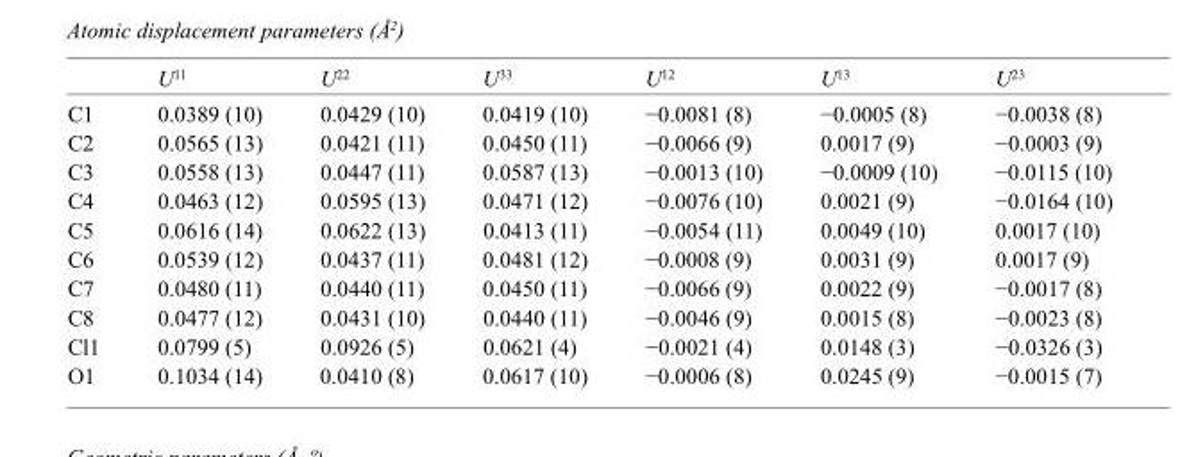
<table><thead><tr><td></td><td>U<sup>11</sup></td><td>U<sup>22</sup></td><td>U<sup>33</sup></td><td>U<sup>12</sup></td><td>U<sup>13</sup></td><td>U<sup>23</sup></td></tr></thead><tbody><tr><td>C1</td><td>0.0389 (10)</td><td>0.0429 (10)</td><td>0.0419 (10)</td><td>−0.0081 (8)</td><td>−0.0005 (8)</td><td>−0.0038 (8)</td></tr><tr><td>C2</td><td>0.0565 (13)</td><td>0.0421 (11)</td><td>0.0450 (11)</td><td>−0.0066 (9)</td><td>0.0017 (9)</td><td>−0.0003 (9)</td></tr><tr><td>C3</td><td>0.0558 (13)</td><td>0.0447 (11)</td><td>0.0587 (13)</td><td>−0.0013 (10)</td><td>−0.0009 (10)</td><td>−0.0115 (10)</td></tr><tr><td>C4</td><td>0.0463 (12)</td><td>0.0595 (13)</td><td>0.0471 (12)</td><td>−0.0076 (10)</td><td>0.0021 (9)</td><td>−0.0164 (10)</td></tr><tr><td>C5</td><td>0.0616 (14)</td><td>0.0622 (13)</td><td>0.0413 (11)</td><td>−0.0054 (11)</td><td>0.0049 (10)</td><td>0.0017 (10)</td></tr><tr><td>C6</td><td>0.0539 (12)</td><td>0.0437 (11)</td><td>0.0481 (12)</td><td>−0.0008 (9)</td><td>0.0031 (9)</td><td>0.0017 (9)</td></tr><tr><td>C7</td><td>0.0480 (11)</td><td>0.0440 (11)</td><td>0.0450 (11)</td><td>−0.0066 (9)</td><td>0.0022 (9)</td><td>−0.0017 (8)</td></tr><tr><td>C8</td><td>0.0477 (12)</td><td>0.0431 (10)</td><td>0.0440 (11)</td><td>−0.0046 (9)</td><td>0.0015 (8)</td><td>−0.0023 (8)</td></tr><tr><td>Cl1</td><td>0.0799 (5)</td><td>0.0926 (5)</td><td>0.0621 (4)</td><td>−0.0021 (4)</td><td>0.0148 (3)</td><td>−0.0326 (3)</td></tr><tr><td>O1</td><td>0.1034 (14)</td><td>0.0410 (8)</td><td>0.0617 (10)</td><td>−0.0006 (8)</td><td>0.0245 (9)</td><td>−0.0015 (7)</td></tr></tbody></table>